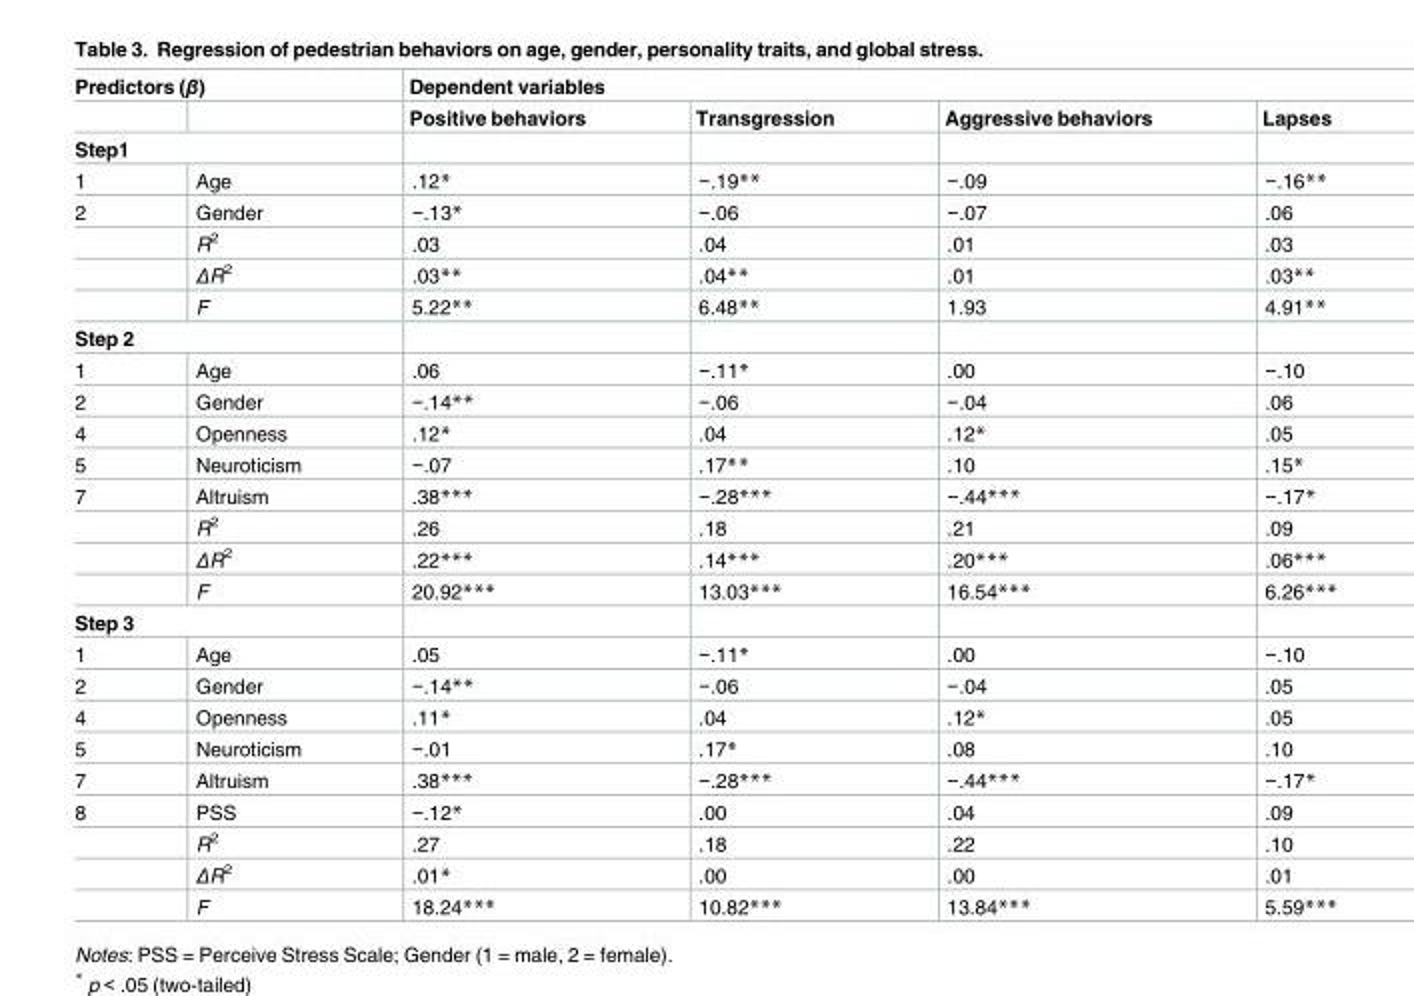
<table><thead><tr><td colspan="2">Predictors (β)</td><td colspan="4">Dependent variables</td></tr><tr><td></td><td></td><td>Positive behaviors</td><td>Transgression</td><td>Aggressive behaviors</td><td>Lapses</td></tr></thead><tbody><tr><td colspan="6">Step1</td></tr><tr><td>1</td><td>Age</td><td>.12*</td><td>−.19**</td><td>−.09</td><td>−.16**</td></tr><tr><td rowspan="4">2</td><td>Gender</td><td>−.13*</td><td>−.06</td><td>−.07</td><td>.06</td></tr><tr><td>R<sup>2</sup></td><td>.03</td><td>.04</td><td>.01</td><td>.03</td></tr><tr><td>ΔR<sup>2</sup></td><td>.03**</td><td>.04**</td><td>.01</td><td>.03**</td></tr><tr><td>F</td><td>5.22**</td><td>6.48**</td><td>1.93</td><td>4.91**</td></tr><tr><td colspan="6">Step 2</td></tr><tr><td>1</td><td>Age</td><td>.06</td><td>−.11*</td><td>.00</td><td>−.10</td></tr><tr><td>2</td><td>Gender</td><td>−.14**</td><td>−.06</td><td>−.04</td><td>.06</td></tr><tr><td>4</td><td>Openness</td><td>.12*</td><td>.04</td><td>.12*</td><td>.05</td></tr><tr><td>5</td><td>Neuroticism</td><td>−.07</td><td>.17**</td><td>.10</td><td>.15*</td></tr><tr><td rowspan="4">7</td><td>Altruism</td><td>.38***</td><td>−.28***</td><td>−.44***</td><td>−.17*</td></tr><tr><td>R<sup>2</sup></td><td>.26</td><td>.18</td><td>.21</td><td>.09</td></tr><tr><td>ΔR<sup>2</sup></td><td>.22***</td><td>.14***</td><td>.20***</td><td>.06***</td></tr><tr><td>F</td><td>20.92***</td><td>13.03***</td><td>16.54***</td><td>6.26***</td></tr><tr><td colspan="6">Step 3</td></tr><tr><td>1</td><td>Age</td><td>.05</td><td>−.11*</td><td>.00</td><td>−.10</td></tr><tr><td>2</td><td>Gender</td><td>−.14**</td><td>−.06</td><td>−.04</td><td>.05</td></tr><tr><td>4</td><td>Openness</td><td>.11*</td><td>.04</td><td>.12*</td><td>.05</td></tr><tr><td>5</td><td>Neuroticism</td><td>−.01</td><td>.17*</td><td>.08</td><td>.10</td></tr><tr><td>7</td><td>Altruism</td><td>.38***</td><td>−.28***</td><td>−.44***</td><td>−.17*</td></tr><tr><td rowspan="4">8</td><td>PSS</td><td>−.12*</td><td>.00</td><td>.04</td><td>.09</td></tr><tr><td>R<sup>2</sup></td><td>.27</td><td>.18</td><td>.22</td><td>.10</td></tr><tr><td>ΔR<sup>2</sup></td><td>.01*</td><td>.00</td><td>.00</td><td>.01</td></tr><tr><td>F</td><td>18.24***</td><td>10.82***</td><td>13.84***</td><td>5.59***</td></tr></tbody></table>